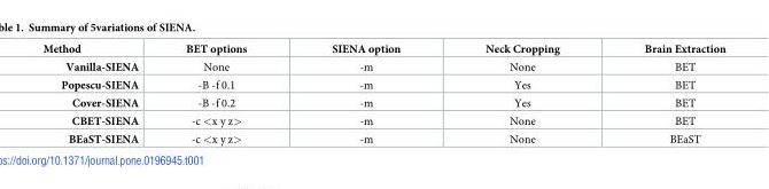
<table><thead><tr><td>Method</td><td>BET options</td><td>SIENA option</td><td>Neck Cropping</td><td>Brain Extraction</td></tr></thead><tbody><tr><td>Vanilla-SIENA</td><td>None</td><td>-m</td><td>None</td><td>BET</td></tr><tr><td>Popescu-SIENA</td><td>-B -f 0.1</td><td>-m</td><td>Yes</td><td>BET</td></tr><tr><td>Cover-SIENA</td><td>-B -f 0.2</td><td>-m</td><td>Yes</td><td>BET</td></tr><tr><td>CBET-SIENA</td><td>-c &lt;x y z&gt;</td><td>-m</td><td>None</td><td>BET</td></tr><tr><td>BEaST-SIENA</td><td>-c &lt;x y z&gt;</td><td>-m</td><td>None</td><td>BEaST</td></tr></tbody></table>